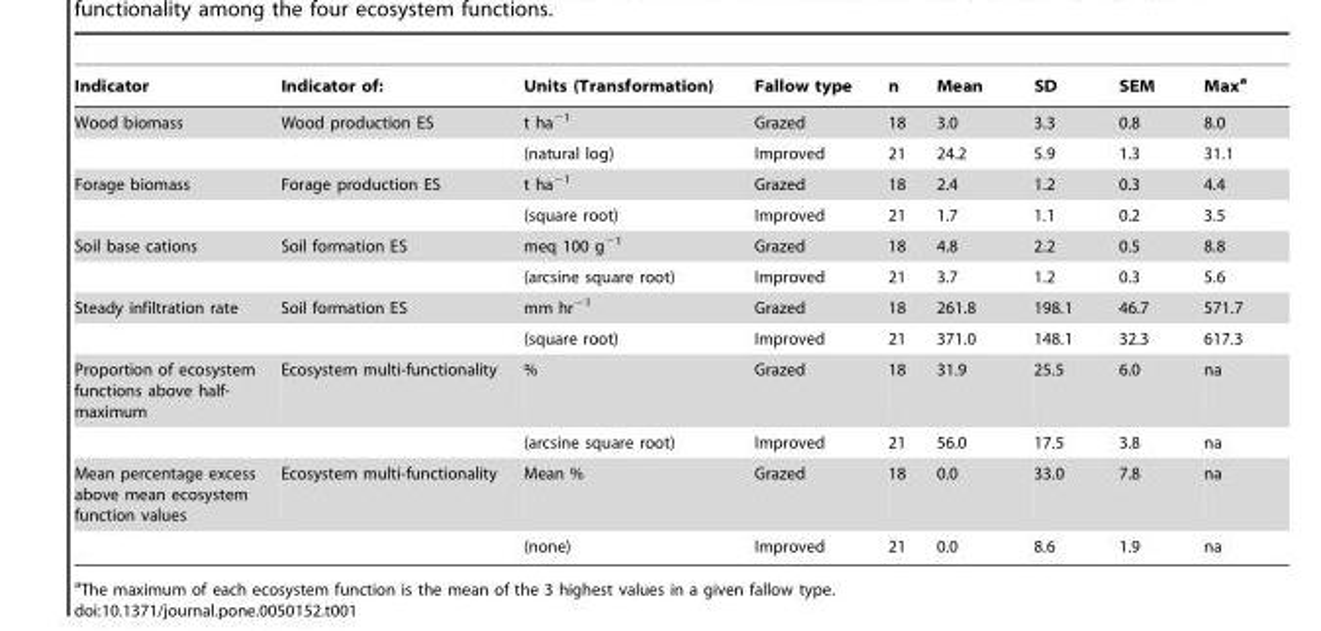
<table><thead><tr><td>Indicator</td><td>Indicator of:</td><td>Units (Transformation)</td><td>Fallow type</td><td>n</td><td>Mean</td><td>SD</td><td>SEM</td><td>Max<sup>a</sup></td></tr></thead><tbody><tr><td rowspan="2">Wood biomass</td><td>Wood production ES</td><td>t ha<sup>−1</sup></td><td>Grazed</td><td>18</td><td>3.0</td><td>3.3</td><td>0.8</td><td>8.0</td></tr><tr><td></td><td>(natural log)</td><td>Improved</td><td>21</td><td>24.2</td><td>5.9</td><td>1.3</td><td>31.1</td></tr><tr><td rowspan="2">Forage biomass</td><td>Forage production ES</td><td>t ha<sup>−1</sup></td><td>Grazed</td><td>18</td><td>2.4</td><td>1.2</td><td>0.3</td><td>4.4</td></tr><tr><td></td><td>(square root)</td><td>Improved</td><td>21</td><td>1.7</td><td>1.1</td><td>0.2</td><td>3.5</td></tr><tr><td rowspan="2">Soil base cations</td><td>Soil formation ES</td><td>meq 100 g<sup>−1</sup></td><td>Grazed</td><td>18</td><td>4.8</td><td>2.2</td><td>0.5</td><td>8.8</td></tr><tr><td></td><td>(arcsine square root)</td><td>Improved</td><td>21</td><td>3.7</td><td>1.2</td><td>0.3</td><td>5.6</td></tr><tr><td rowspan="2">Steady infiltration rate</td><td>Soil formation ES</td><td>mm hr<sup>−1</sup></td><td>Grazed</td><td>18</td><td>261.8</td><td>198.1</td><td>46.7</td><td>571.7</td></tr><tr><td></td><td>(square root)</td><td>Improved</td><td>21</td><td>371.0</td><td>148.1</td><td>32.3</td><td>617.3</td></tr><tr><td rowspan="2">Proportion of ecosystem functions above half- maximum</td><td>Ecosystem multi-functionality</td><td>%</td><td>Grazed</td><td>18</td><td>31.9</td><td>25.5</td><td>6.0</td><td>na</td></tr><tr><td></td><td>(arcsine square root)</td><td>Improved</td><td>21</td><td>56.0</td><td>17.5</td><td>3.8</td><td>na</td></tr><tr><td rowspan="2">Mean percentage excess above mean ecosystem function values</td><td>Ecosystem multi-functionality</td><td>Mean %</td><td>Grazed</td><td>18</td><td>0.0</td><td>33.0</td><td>7.8</td><td>na</td></tr><tr><td></td><td>(none)</td><td>Improved</td><td>21</td><td>0.0</td><td>8.6</td><td>1.9</td><td>na</td></tr></tbody></table>